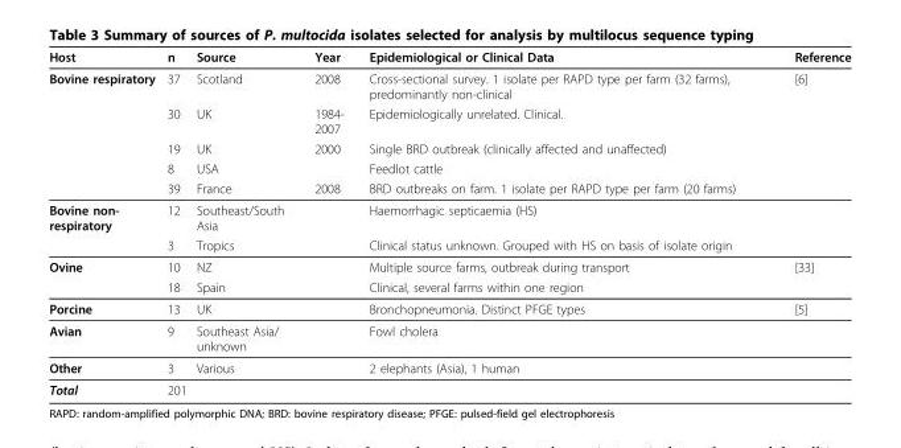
<table><thead><tr><td>Host</td><td>n</td><td>Source</td><td>Year</td><td>Epidemiological or Clinical Data</td><td>Reference</td></tr></thead><tbody><tr><td rowspan="5">Bovine respiratory</td><td>37</td><td>Scotland</td><td>2008</td><td>Cross-sectional survey. 1 isolate per RAPD type per farm (32 farms), predominantly non-clinical</td><td>[6]</td></tr><tr><td>30</td><td>UK</td><td>1984- 2007</td><td>Epidemiologically unrelated. Clinical.</td><td></td></tr><tr><td>19</td><td>UK</td><td>2000</td><td>Single BRD outbreak (clinically affected and unaffected)</td><td></td></tr><tr><td>8</td><td>USA</td><td></td><td>Feedlot cattle</td><td></td></tr><tr><td>39</td><td>France</td><td>2008</td><td>BRD outbreaks on farm. 1 isolate per RAPD type per farm (20 farms)</td><td></td></tr><tr><td rowspan="2">Bovine non- respiratory</td><td>12</td><td>Southeast/South Asia</td><td></td><td>Haemorrhagic septicaemia (HS)</td><td></td></tr><tr><td>3</td><td>Tropics</td><td></td><td>Clinical status unknown. Grouped with HS on basis of isolate origin</td><td></td></tr><tr><td rowspan="2">Ovine</td><td>10</td><td>NZ</td><td></td><td>Multiple source farms, outbreak during transport</td><td>[33]</td></tr><tr><td>18</td><td>Spain</td><td></td><td>Clinical, several farms within one region</td><td></td></tr><tr><td>Porcine</td><td>13</td><td>UK</td><td></td><td>Bronchopneumonia. Distinct PFGE types</td><td>[5]</td></tr><tr><td>Avian</td><td>9</td><td>Southeast Asia/ unknown</td><td></td><td>Fowl cholera</td><td></td></tr><tr><td>Other</td><td>3</td><td>Various</td><td></td><td>2 elephants (Asia), 1 human</td><td></td></tr><tr><td>Total</td><td>201</td><td></td><td></td><td></td><td></td></tr></tbody></table>